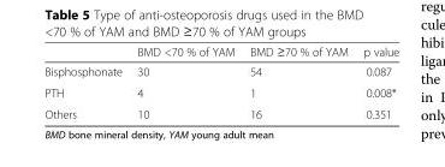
<table><thead><tr><td></td><td>BMD &lt;70 % of YAM</td><td>BMD ≥70 % of YAM</td><td>p value</td></tr></thead><tbody><tr><td>Bisphosphonate</td><td>30</td><td>54</td><td>0.087</td></tr><tr><td>PTH</td><td>4</td><td>1</td><td>0.008*</td></tr><tr><td>Others</td><td>10</td><td>16</td><td>0.351</td></tr></tbody></table>